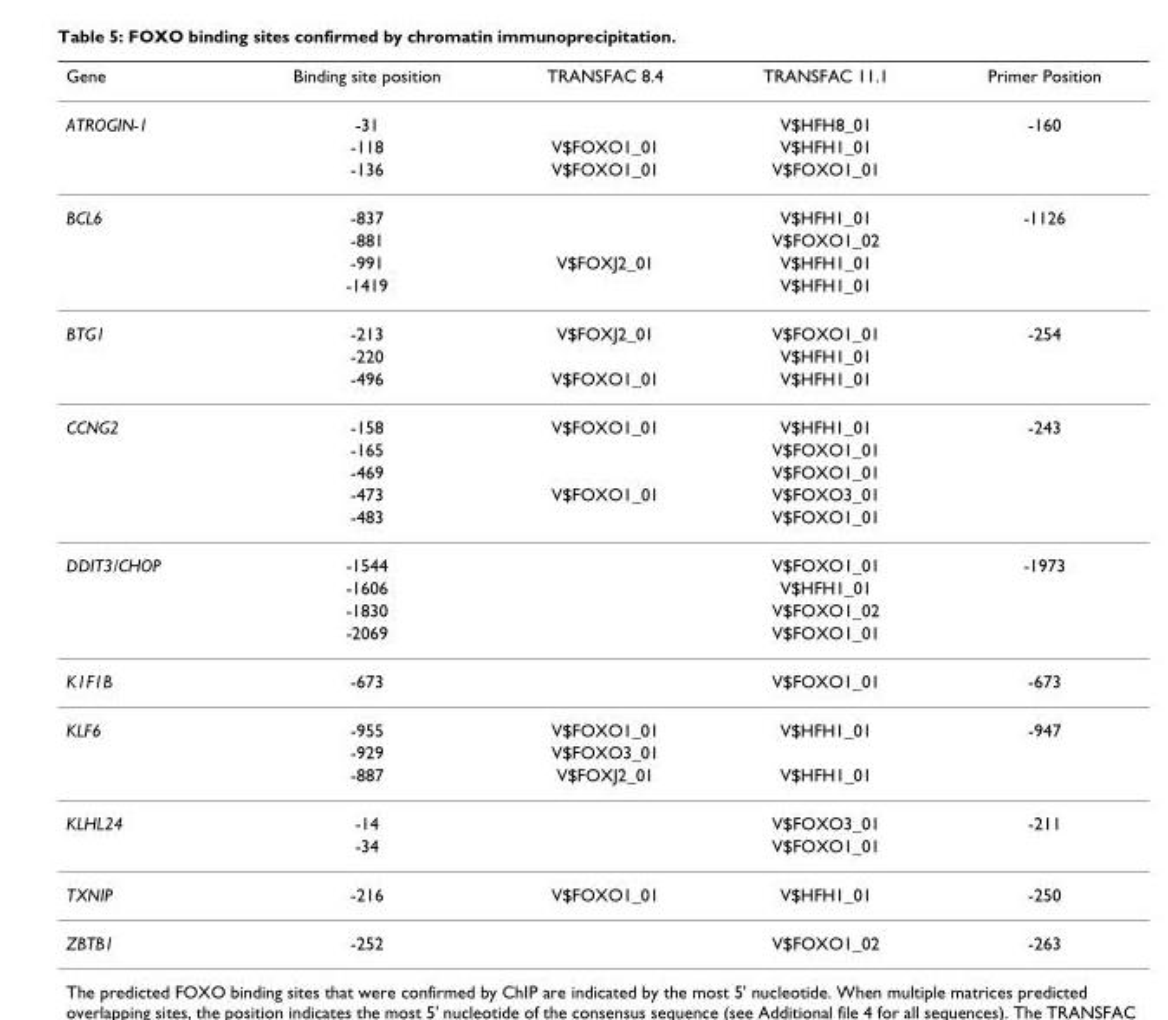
<table><thead><tr><td>Gene</td><td>Binding site position</td><td>TRANSFAC 8.4</td><td>TRANSFAC 11.1</td><td>Primer Position</td></tr></thead><tbody><tr><td rowspan="3">ATROGIN-1</td><td>-31</td><td></td><td>V$HFH8_01</td><td>-160</td></tr><tr><td>-118</td><td>V$FOXO1_01</td><td>V$HFH1_01</td><td></td></tr><tr><td>-136</td><td>V$FOXO1_01</td><td>V$FOXO1_01</td><td></td></tr><tr><td rowspan="4">BCL6</td><td>-837</td><td></td><td>V$HFH1_01</td><td>-1126</td></tr><tr><td>-881</td><td></td><td>V$FOXO1_02</td><td></td></tr><tr><td>-991</td><td>V$FOXJ2_01</td><td>V$HFH1_01</td><td></td></tr><tr><td>-1419</td><td></td><td>V$HFH1_01</td><td></td></tr><tr><td rowspan="3">BTG1</td><td>-213</td><td>V$FOXJ2_01</td><td>V$FOXO1_01</td><td>-254</td></tr><tr><td>-220</td><td></td><td>V$HFH1_01</td><td></td></tr><tr><td>-496</td><td>V$FOXO1_01</td><td>V$HFH1_01</td><td></td></tr><tr><td rowspan="5">CCNG2</td><td>-158</td><td>V$FOXO1_01</td><td>V$HFH1_01</td><td>-243</td></tr><tr><td>-165</td><td></td><td>V$FOXO1_01</td><td></td></tr><tr><td>-469</td><td></td><td>V$FOXO1_01</td><td></td></tr><tr><td>-473</td><td>V$FOXO1_01</td><td>V$FOXO3_01</td><td></td></tr><tr><td>-483</td><td></td><td>V$FOXO1_01</td><td></td></tr><tr><td rowspan="4">DDIT3/CHOP</td><td>-1544</td><td></td><td>V$FOXO1_01</td><td>-1973</td></tr><tr><td>-1606</td><td></td><td>V$HFH1_01</td><td></td></tr><tr><td>-1830</td><td></td><td>V$FOXO1_02</td><td></td></tr><tr><td>-2069</td><td></td><td>V$FOXO1_01</td><td></td></tr><tr><td>K1F1B</td><td>-673</td><td></td><td>V$FOXO1_01</td><td>-673</td></tr><tr><td rowspan="3">KLF6</td><td>-955</td><td>V$FOXO1_01</td><td>V$HFH1_01</td><td>-947</td></tr><tr><td>-929</td><td>V$FOXO3_01</td><td></td><td></td></tr><tr><td>-887</td><td>V$FOXJ2_01</td><td>V$HFH1_01</td><td></td></tr><tr><td rowspan="2">KLHL24</td><td>-14</td><td></td><td>V$FOXO3_01</td><td>-211</td></tr><tr><td>-34</td><td></td><td>V$FOXO1_01</td><td></td></tr><tr><td>TXNIP</td><td>-216</td><td>V$FOXO1_01</td><td>V$HFH1_01</td><td>-250</td></tr><tr><td>ZBTB1</td><td>-252</td><td></td><td>V$FOXO1_02</td><td>-263</td></tr></tbody></table>